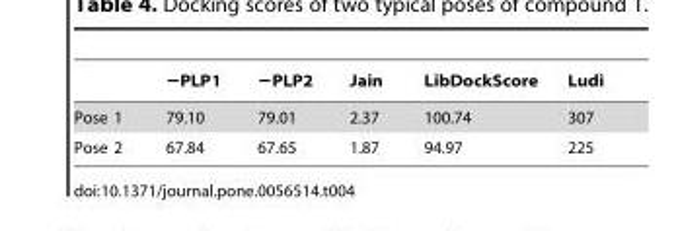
<table><thead><tr><td></td><td>−PLP1</td><td>−PLP2</td><td>Jain</td><td>LibDockScore</td><td>Ludi</td></tr></thead><tbody><tr><td>Pose 1</td><td>79.10</td><td>79.01</td><td>2.37</td><td>100.74</td><td>307</td></tr><tr><td>Pose 2</td><td>67.84</td><td>67.65</td><td>1.87</td><td>94.97</td><td>225</td></tr></tbody></table>